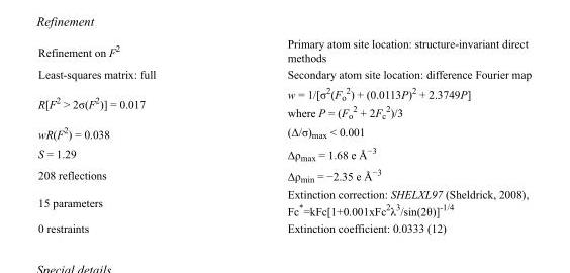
<table><tbody><tr><td>Refinement on F<sup>2</sup></td><td>Primary atom site location: structure-invariant direct methods</td></tr><tr><td>Least-squares matrix: full</td><td>Secondary atom site location: difference Fourier map</td></tr><tr><td>R[F<sup>2</sup> &gt; 2σ(F<sup>2</sup>)] = 0.017</td><td>w = 1/[σ<sup>2</sup>(F<sub>o</sub> <sup>2</sup>) + (0.0113P)<sup>2</sup> + 2.3749P] where P = (F<sub>o</sub> <sup>2</sup> + 2F<sub>c</sub> <sup>2</sup>)/3</td></tr><tr><td>wR(F<sup>2</sup>) = 0.038</td><td>(Δ/σ)<sub>max</sub> &lt; 0.001</td></tr><tr><td>S = 1.29</td><td>Δρ<sub>max</sub> = 1.68 e Å<sup>−3</sup></td></tr><tr><td>208 reflections</td><td>Δρ<sub>min</sub> = −2.35 e Å<sup>−3</sup></td></tr><tr><td>15 parameters</td><td>Extinction correction: SHELXL97 (Sheldrick, 2008), Fc*=kFc[1+0.001xFc<sup>2</sup>λ<sup>3</sup>/sin(2θ)]<sup>-1/4</sup></td></tr><tr><td>0 restraints</td><td>Extinction coefficient: 0.0333 (12)</td></tr></tbody></table>